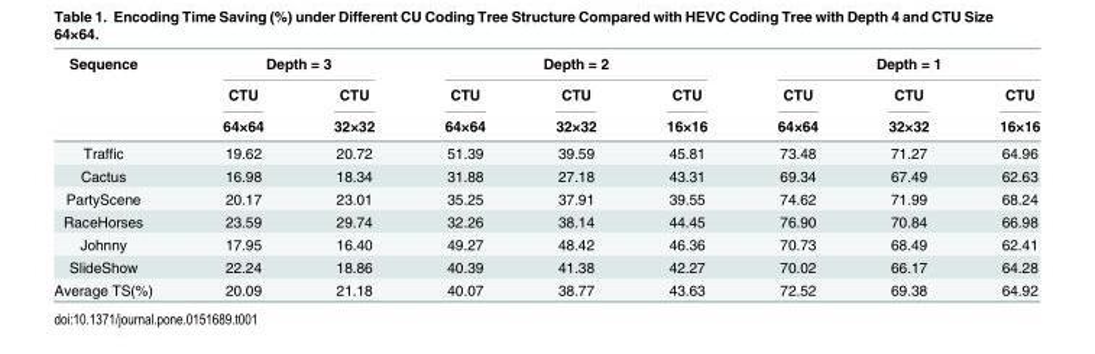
<table><thead><tr><td rowspan="3">Sequence</td><td colspan="2">Depth = 3</td><td colspan="3">Depth = 2</td><td colspan="3">Depth = 1</td></tr><tr><td rowspan="2">CTU 64×64</td><td rowspan="2">CTU 32×32</td><td rowspan="2">CTU 64×64</td><td rowspan="2">CTU 32×32</td><td rowspan="2">CTU 16×16</td><td rowspan="2">CTU 64×64</td><td rowspan="2">CTU 32×32</td><td rowspan="2">CTU 16×16</td></tr><tr></tr></thead><tbody><tr><td>Traffic</td><td>19.62</td><td>20.72</td><td>51.39</td><td>39.59</td><td>45.81</td><td>73.48</td><td>71.27</td><td>64.96</td></tr><tr><td>Cactus</td><td>16.98</td><td>18.34</td><td>31.88</td><td>27.18</td><td>43.31</td><td>69.34</td><td>67.49</td><td>62.63</td></tr><tr><td>PartyScene</td><td>20.17</td><td>23.01</td><td>35.25</td><td>37.91</td><td>39.55</td><td>74.62</td><td>71.99</td><td>68.24</td></tr><tr><td>RaceHorses</td><td>23.59</td><td>29.74</td><td>32.26</td><td>38.14</td><td>44.45</td><td>76.90</td><td>70.84</td><td>66.98</td></tr><tr><td>Johnny</td><td>17.95</td><td>16.40</td><td>49.27</td><td>48.42</td><td>46.36</td><td>70.73</td><td>68.49</td><td>62.41</td></tr><tr><td>SlideShow</td><td>22.24</td><td>18.86</td><td>40.39</td><td>41.38</td><td>42.27</td><td>70.02</td><td>66.17</td><td>64.28</td></tr><tr><td>Average TS(%)</td><td>20.09</td><td>21.18</td><td>40.07</td><td>38.77</td><td>43.63</td><td>72.52</td><td>69.38</td><td>64.92</td></tr></tbody></table>